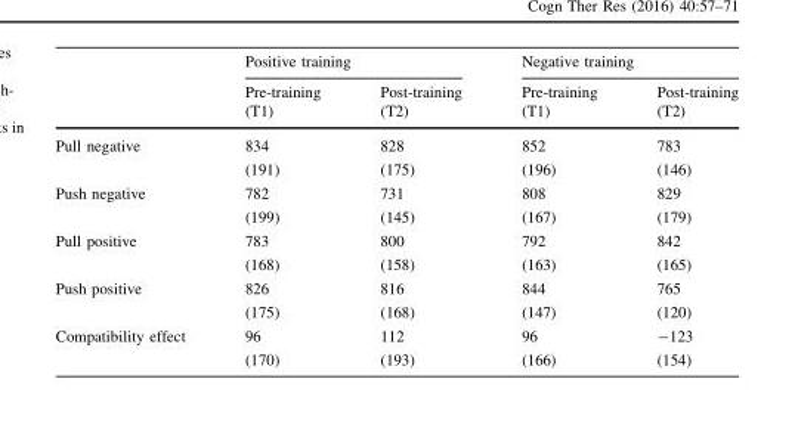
<table><thead><tr><td rowspan="2"></td><td colspan="2">Positive training</td><td colspan="2">Negative training</td></tr><tr><td>Pre-training (T1)</td><td>Post-training (T2)</td><td>Pre-training (T1)</td><td>Post-training (T2)</td></tr></thead><tbody><tr><td>Pull negative</td><td>834 (191)</td><td>828 (175)</td><td>852 (196)</td><td>783 (146)</td></tr><tr><td>Push negative</td><td>782 (199)</td><td>731 (145)</td><td>808 (167)</td><td>829 (179)</td></tr><tr><td>Pull positive</td><td>783 (168)</td><td>800 (158)</td><td>792 (163)</td><td>842 (165)</td></tr><tr><td>Push positive</td><td>826 (175)</td><td>816 (168)</td><td>844 (147)</td><td>765 (120)</td></tr><tr><td>Compatibility effect</td><td>96 (170)</td><td>112 (193)</td><td>96 (166)</td><td>-123 (154)</td></tr></tbody></table>